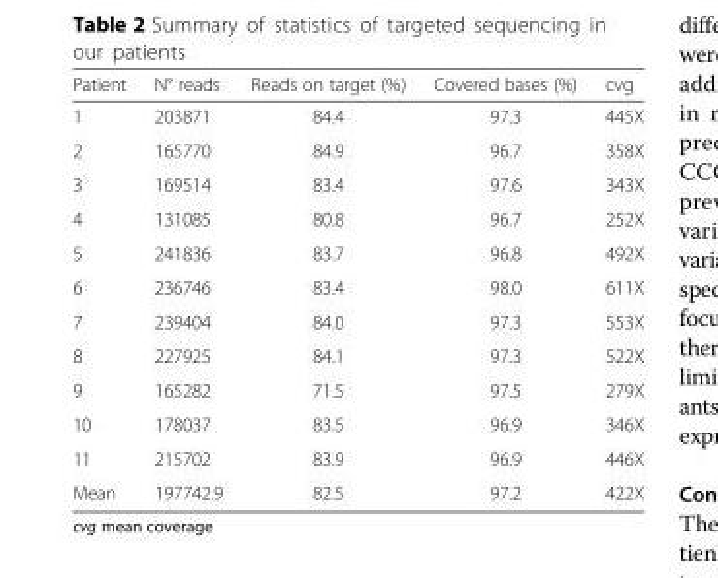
<table><thead><tr><td>Patient</td><td>N° reads</td><td>Reads on target (%)</td><td>Covered bases (%)</td><td>cvg</td></tr></thead><tbody><tr><td>1</td><td>203871</td><td>84.4</td><td>97.3</td><td>445X</td></tr><tr><td>2</td><td>165770</td><td>84.9</td><td>96.7</td><td>358X</td></tr><tr><td>3</td><td>169514</td><td>83.4</td><td>97.6</td><td>343X</td></tr><tr><td>4</td><td>131085</td><td>80.8</td><td>96.7</td><td>252X</td></tr><tr><td>5</td><td>241836</td><td>83.7</td><td>96.8</td><td>492X</td></tr><tr><td>6</td><td>236746</td><td>83.4</td><td>98.0</td><td>611X</td></tr><tr><td>7</td><td>239404</td><td>84.0</td><td>97.3</td><td>553X</td></tr><tr><td>8</td><td>227925</td><td>84.1</td><td>97.3</td><td>522X</td></tr><tr><td>9</td><td>165282</td><td>71.5</td><td>97.5</td><td>279X</td></tr><tr><td>10</td><td>178037</td><td>83.5</td><td>96.9</td><td>346X</td></tr><tr><td>11</td><td>215702</td><td>83.9</td><td>96.9</td><td>446X</td></tr><tr><td>Mean</td><td>197742.9</td><td>82.5</td><td>97.2</td><td>422X</td></tr></tbody></table>